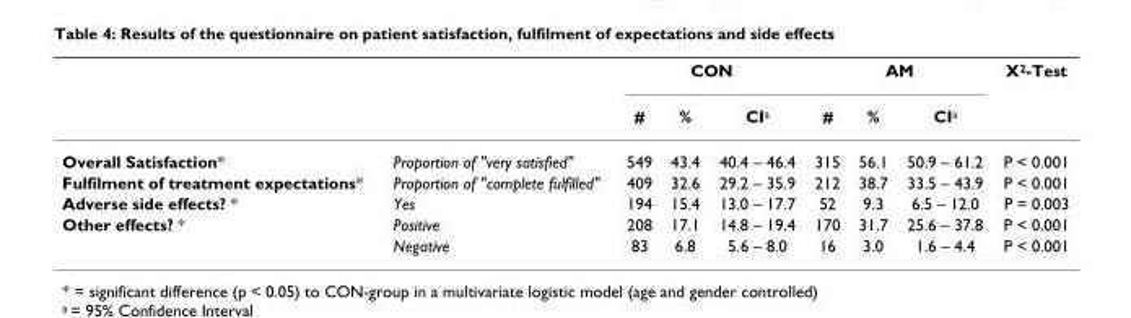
<table><thead><tr><td rowspan="2"></td><td rowspan="2"></td><td colspan="3">CON</td><td colspan="3">AM</td><td rowspan="2">X<sup>2</sup>-Test</td></tr><tr><td>#</td><td>%</td><td>CI<sup>a</sup></td><td>#</td><td>%</td><td>CI<sup>a</sup></td></tr></thead><tbody><tr><td>Overall Satisfaction*</td><td>Proportion of &quot;very satisfied&quot;</td><td>549</td><td>43.4</td><td>40.4 – 46.4</td><td>315</td><td>56.1</td><td>50.9 – 61.2</td><td>P &lt; 0.001</td></tr><tr><td>Fulfilment of treatment expectations*</td><td>Proportion of &quot;complete fulfilled&quot;</td><td>409</td><td>32.6</td><td>29.2 – 35.9</td><td>212</td><td>38.7</td><td>33.5 – 43.9</td><td>P &lt; 0.001</td></tr><tr><td>Adverse side effects? *</td><td>Yes</td><td>194</td><td>15.4</td><td>13.0 – 17.7</td><td>52</td><td>9.3</td><td>6.5 – 12.0</td><td>P = 0.003</td></tr><tr><td rowspan="2">Other effects? *</td><td>Positive</td><td>208</td><td>17.1</td><td>14.8 – 19.4</td><td>170</td><td>31.7</td><td>25.6 – 37.8</td><td>P &lt; 0.001</td></tr><tr><td>Negative</td><td>83</td><td>6.8</td><td>5.6 – 8.0</td><td>16</td><td>3.0</td><td>1.6 – 4.4</td><td>P &lt; 0.001</td></tr></tbody></table>